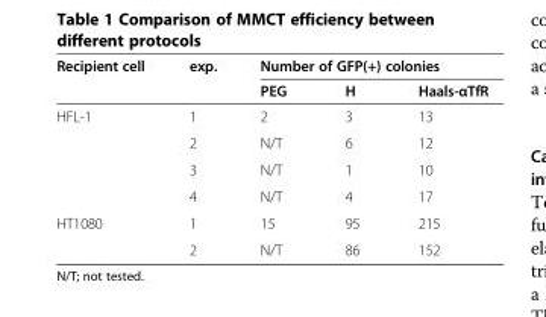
<table><thead><tr><td rowspan="2">Recipient cell</td><td rowspan="2">exp.</td><td colspan="3">Number of GFP(+) colonies</td></tr><tr><td>PEG</td><td>H</td><td>Haals-αTfR</td></tr></thead><tbody><tr><td rowspan="4">HFL-1</td><td>1</td><td>2</td><td>3</td><td>13</td></tr><tr><td>2</td><td>N/T</td><td>6</td><td>12</td></tr><tr><td>3</td><td>N/T</td><td>1</td><td>10</td></tr><tr><td>4</td><td>N/T</td><td>4</td><td>17</td></tr><tr><td rowspan="2">HT1080</td><td>1</td><td>15</td><td>95</td><td>215</td></tr><tr><td>2</td><td>N/T</td><td>86</td><td>152</td></tr></tbody></table>